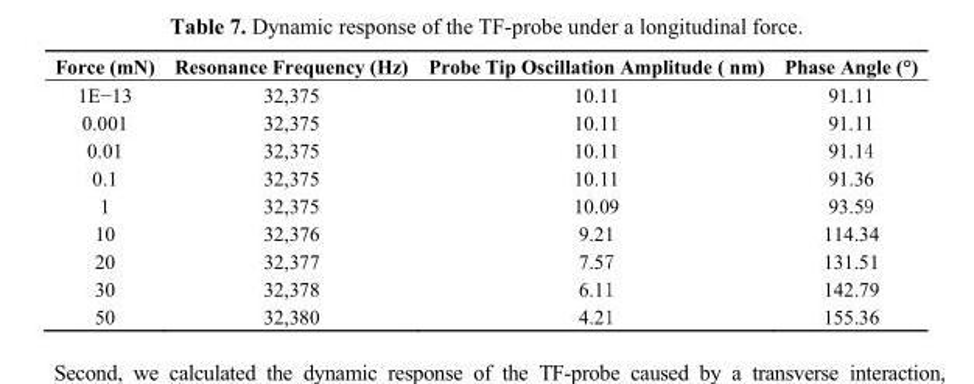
<table><thead><tr><td>Force (mN)</td><td>Resonance Frequency (Hz)</td><td>Probe Tip Oscillation Amplitude ( nm)</td><td>Phase Angle (°)</td></tr></thead><tbody><tr><td>1E−13</td><td>32,375</td><td>10.11</td><td>91.11</td></tr><tr><td>0.001</td><td>32,375</td><td>10.11</td><td>91.11</td></tr><tr><td>0.01</td><td>32,375</td><td>10.11</td><td>91.14</td></tr><tr><td>0.1</td><td>32,375</td><td>10.11</td><td>91.36</td></tr><tr><td>1</td><td>32,375</td><td>10.09</td><td>93.59</td></tr><tr><td>10</td><td>32,376</td><td>9.21</td><td>114.34</td></tr><tr><td>20</td><td>32,377</td><td>7.57</td><td>131.51</td></tr><tr><td>30</td><td>32,378</td><td>6.11</td><td>142.79</td></tr><tr><td>50</td><td>32,380</td><td>4.21</td><td>155.36</td></tr></tbody></table>